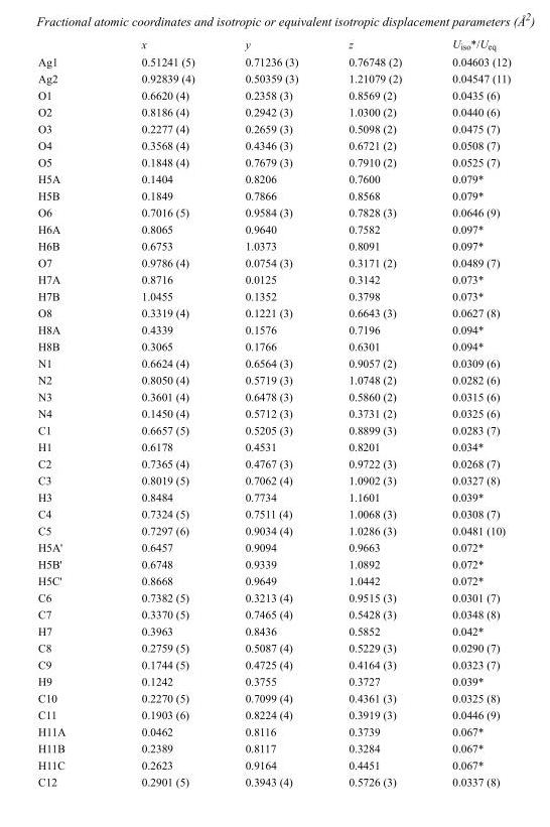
<table><thead><tr><td></td><td>x</td><td>y</td><td>z</td><td>U<sub>iso</sub>*/U<sub>eq</sub></td></tr></thead><tbody><tr><td>Ag1</td><td>0.51241 (5)</td><td>0.71236 (3)</td><td>0.76748 (2)</td><td>0.04603 (12)</td></tr><tr><td>Ag2</td><td>0.92839 (4)</td><td>0.50359 (3)</td><td>1.21079 (2)</td><td>0.04547 (11)</td></tr><tr><td>O1</td><td>0.6620 (4)</td><td>0.2358 (3)</td><td>0.8569 (2)</td><td>0.0435 (6)</td></tr><tr><td>O2</td><td>0.8186 (4)</td><td>0.2942 (3)</td><td>1.0300 (2)</td><td>0.0440 (6)</td></tr><tr><td>O3</td><td>0.2277 (4)</td><td>0.2659 (3)</td><td>0.5098 (2)</td><td>0.0475 (7)</td></tr><tr><td>O4</td><td>0.3568 (4)</td><td>0.4346 (3)</td><td>0.6721 (2)</td><td>0.0508 (7)</td></tr><tr><td>O5</td><td>0.1848 (4)</td><td>0.7679 (3)</td><td>0.7910 (2)</td><td>0.0525 (7)</td></tr><tr><td>H5A</td><td>0.1404</td><td>0.8206</td><td>0.7600</td><td>0.079*</td></tr><tr><td>H5B</td><td>0.1849</td><td>0.7866</td><td>0.8568</td><td>0.079*</td></tr><tr><td>O6</td><td>0.7016 (5)</td><td>0.9584 (3)</td><td>0.7828 (3)</td><td>0.0646 (9)</td></tr><tr><td>H6A</td><td>0.8065</td><td>0.9640</td><td>0.7582</td><td>0.097*</td></tr><tr><td>H6B</td><td>0.6753</td><td>1.0373</td><td>0.8091</td><td>0.097*</td></tr><tr><td>O7</td><td>0.9786 (4)</td><td>0.0754 (3)</td><td>0.3171 (2)</td><td>0.0489 (7)</td></tr><tr><td>H7A</td><td>0.8716</td><td>0.0125</td><td>0.3142</td><td>0.073*</td></tr><tr><td>H7B</td><td>1.0455</td><td>0.1352</td><td>0.3798</td><td>0.073*</td></tr><tr><td>O8</td><td>0.3319 (4)</td><td>0.1221 (3)</td><td>0.6643 (3)</td><td>0.0627 (8)</td></tr><tr><td>H8A</td><td>0.4339</td><td>0.1576</td><td>0.7196</td><td>0.094*</td></tr><tr><td>H8B</td><td>0.3065</td><td>0.1766</td><td>0.6301</td><td>0.094*</td></tr><tr><td>N1</td><td>0.6624 (4)</td><td>0.6564 (3)</td><td>0.9057 (2)</td><td>0.0309 (6)</td></tr><tr><td>N2</td><td>0.8050 (4)</td><td>0.5719 (3)</td><td>1.0748 (2)</td><td>0.0282 (6)</td></tr><tr><td>N3</td><td>0.3601 (4)</td><td>0.6478 (3)</td><td>0.5860 (2)</td><td>0.0315 (6)</td></tr><tr><td>N4</td><td>0.1450 (4)</td><td>0.5712 (3)</td><td>0.3731 (2)</td><td>0.0325 (6)</td></tr><tr><td>C1</td><td>0.6657 (5)</td><td>0.5205 (3)</td><td>0.8899 (3)</td><td>0.0283 (7)</td></tr><tr><td>H1</td><td>0.6178</td><td>0.4531</td><td>0.8201</td><td>0.034*</td></tr><tr><td>C2</td><td>0.7365 (4)</td><td>0.4767 (3)</td><td>0.9722 (3)</td><td>0.0268 (7)</td></tr><tr><td>C3</td><td>0.8019 (5)</td><td>0.7062 (4)</td><td>1.0902 (3)</td><td>0.0327 (8)</td></tr><tr><td>H3</td><td>0.8484</td><td>0.7734</td><td>1.1601</td><td>0.039*</td></tr><tr><td>C4</td><td>0.7324 (5)</td><td>0.7511 (4)</td><td>1.0068 (3)</td><td>0.0308 (7)</td></tr><tr><td>C5</td><td>0.7297 (6)</td><td>0.9034 (4)</td><td>1.0286 (3)</td><td>0.0481 (10)</td></tr><tr><td>H5A&#x27;</td><td>0.6457</td><td>0.9094</td><td>0.9663</td><td>0.072*</td></tr><tr><td>H5B&#x27;</td><td>0.6748</td><td>0.9339</td><td>1.0892</td><td>0.072*</td></tr><tr><td>H5C&#x27;</td><td>0.8668</td><td>0.9649</td><td>1.0442</td><td>0.072*</td></tr><tr><td>C6</td><td>0.7382 (5)</td><td>0.3213 (4)</td><td>0.9515 (3)</td><td>0.0301 (7)</td></tr><tr><td>C7</td><td>0.3370 (5)</td><td>0.7465 (4)</td><td>0.5428 (3)</td><td>0.0348 (8)</td></tr><tr><td>H7</td><td>0.3963</td><td>0.8436</td><td>0.5852</td><td>0.042*</td></tr><tr><td>C8</td><td>0.2759 (5)</td><td>0.5087 (4)</td><td>0.5229 (3)</td><td>0.0290 (7)</td></tr><tr><td>C9</td><td>0.1744 (5)</td><td>0.4725 (4)</td><td>0.4164 (3)</td><td>0.0323 (7)</td></tr><tr><td>H9</td><td>0.1242</td><td>0.3755</td><td>0.3727</td><td>0.039*</td></tr><tr><td>C10</td><td>0.2270 (5)</td><td>0.7099 (4)</td><td>0.4361 (3)</td><td>0.0325 (8)</td></tr><tr><td>C11</td><td>0.1903 (6)</td><td>0.8224 (4)</td><td>0.3919 (3)</td><td>0.0446 (9)</td></tr><tr><td>H11A</td><td>0.0462</td><td>0.8116</td><td>0.3739</td><td>0.067*</td></tr><tr><td>H11B</td><td>0.2389</td><td>0.8117</td><td>0.3284</td><td>0.067*</td></tr><tr><td>H11C</td><td>0.2623</td><td>0.9164</td><td>0.4451</td><td>0.067*</td></tr><tr><td>C12</td><td>0.2901 (5)</td><td>0.3943 (4)</td><td>0.5726 (3)</td><td>0.0337 (8)</td></tr></tbody></table>